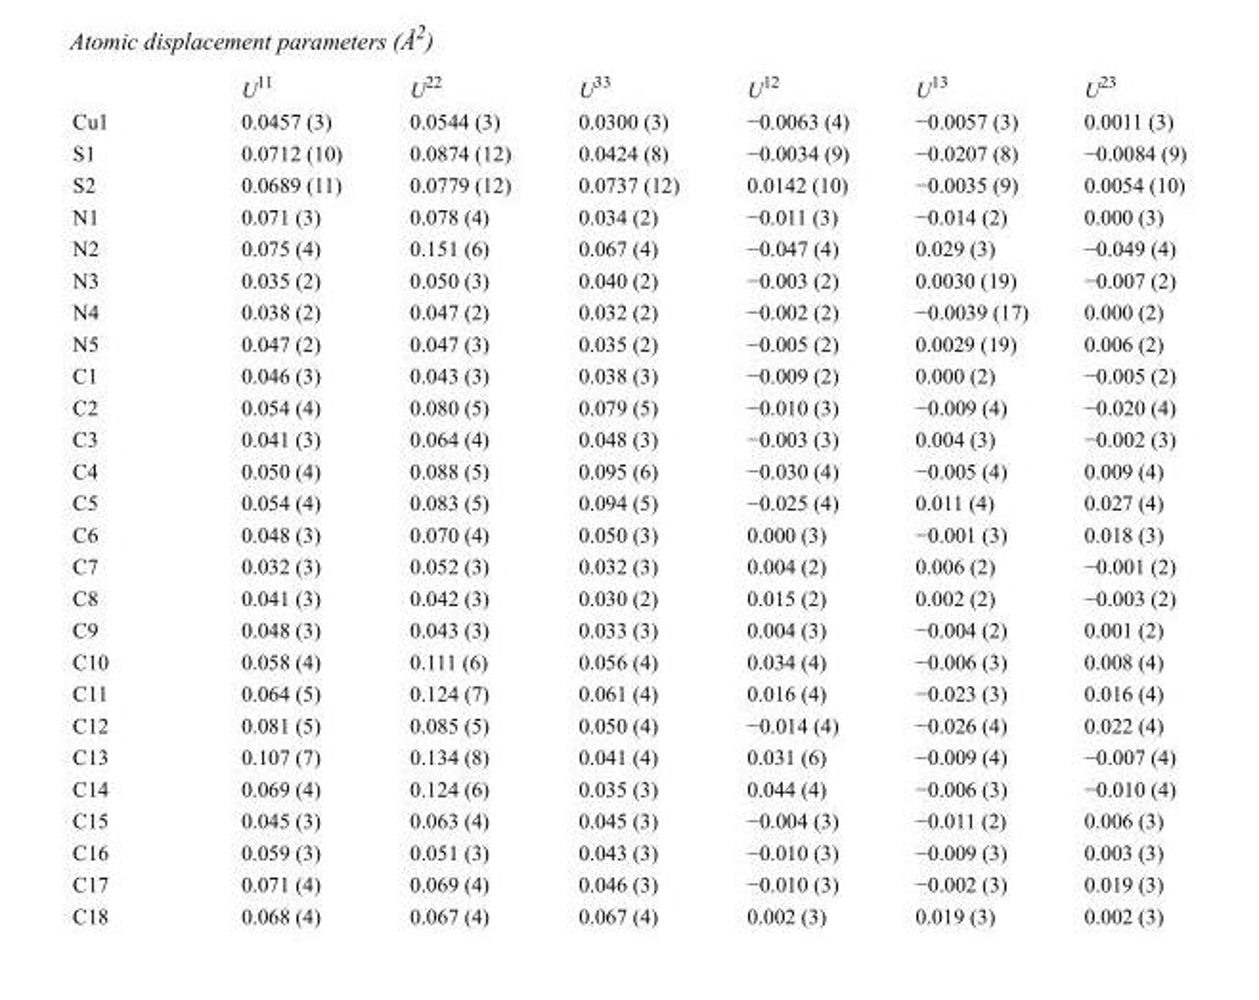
<table><thead><tr><td></td><td>U<sup>11</sup></td><td>U<sup>22</sup></td><td>U<sup>33</sup></td><td>U<sup>12</sup></td><td>U<sup>13</sup></td><td>U<sup>23</sup></td></tr></thead><tbody><tr><td>Cu1</td><td>0.0457 (3)</td><td>0.0544 (3)</td><td>0.0300 (3)</td><td>−0.0063 (4)</td><td>−0.0057 (3)</td><td>0.0011 (3)</td></tr><tr><td>S1</td><td>0.0712 (10)</td><td>0.0874 (12)</td><td>0.0424 (8)</td><td>−0.0034 (9)</td><td>−0.0207 (8)</td><td>−0.0084 (9)</td></tr><tr><td>S2</td><td>0.0689 (11)</td><td>0.0779 (12)</td><td>0.0737 (12)</td><td>0.0142 (10)</td><td>−0.0035 (9)</td><td>0.0054 (10)</td></tr><tr><td>N1</td><td>0.071 (3)</td><td>0.078 (4)</td><td>0.034 (2)</td><td>−0.011 (3)</td><td>−0.014 (2)</td><td>0.000 (3)</td></tr><tr><td>N2</td><td>0.075 (4)</td><td>0.151 (6)</td><td>0.067 (4)</td><td>−0.047 (4)</td><td>0.029 (3)</td><td>−0.049 (4)</td></tr><tr><td>N3</td><td>0.035 (2)</td><td>0.050 (3)</td><td>0.040 (2)</td><td>−0.003 (2)</td><td>0.0030 (19)</td><td>−0.007 (2)</td></tr><tr><td>N4</td><td>0.038 (2)</td><td>0.047 (2)</td><td>0.032 (2)</td><td>−0.002 (2)</td><td>−0.0039 (17)</td><td>0.000 (2)</td></tr><tr><td>N5</td><td>0.047 (2)</td><td>0.047 (3)</td><td>0.035 (2)</td><td>−0.005 (2)</td><td>0.0029 (19)</td><td>0.006 (2)</td></tr><tr><td>C1</td><td>0.046 (3)</td><td>0.043 (3)</td><td>0.038 (3)</td><td>−0.009 (2)</td><td>0.000 (2)</td><td>−0.005 (2)</td></tr><tr><td>C2</td><td>0.054 (4)</td><td>0.080 (5)</td><td>0.079 (5)</td><td>−0.010 (3)</td><td>−0.009 (4)</td><td>−0.020 (4)</td></tr><tr><td>C3</td><td>0.041 (3)</td><td>0.064 (4)</td><td>0.048 (3)</td><td>−0.003 (3)</td><td>0.004 (3)</td><td>−0.002 (3)</td></tr><tr><td>C4</td><td>0.050 (4)</td><td>0.088 (5)</td><td>0.095 (6)</td><td>−0.030 (4)</td><td>−0.005 (4)</td><td>0.009 (4)</td></tr><tr><td>C5</td><td>0.054 (4)</td><td>0.083 (5)</td><td>0.094 (5)</td><td>−0.025 (4)</td><td>0.011 (4)</td><td>0.027 (4)</td></tr><tr><td>C6</td><td>0.048 (3)</td><td>0.070 (4)</td><td>0.050 (3)</td><td>0.000 (3)</td><td>−0.001 (3)</td><td>0.018 (3)</td></tr><tr><td>C7</td><td>0.032 (3)</td><td>0.052 (3)</td><td>0.032 (3)</td><td>0.004 (2)</td><td>0.006 (2)</td><td>−0.001 (2)</td></tr><tr><td>C8</td><td>0.041 (3)</td><td>0.042 (3)</td><td>0.030 (2)</td><td>0.015 (2)</td><td>0.002 (2)</td><td>−0.003 (2)</td></tr><tr><td>C9</td><td>0.048 (3)</td><td>0.043 (3)</td><td>0.033 (3)</td><td>0.004 (3)</td><td>−0.004 (2)</td><td>0.001 (2)</td></tr><tr><td>C10</td><td>0.058 (4)</td><td>0.111 (6)</td><td>0.056 (4)</td><td>0.034 (4)</td><td>−0.006 (3)</td><td>0.008 (4)</td></tr><tr><td>C11</td><td>0.064 (5)</td><td>0.124 (7)</td><td>0.061 (4)</td><td>0.016 (4)</td><td>−0.023 (3)</td><td>0.016 (4)</td></tr><tr><td>C12</td><td>0.081 (5)</td><td>0.085 (5)</td><td>0.050 (4)</td><td>−0.014 (4)</td><td>−0.026 (4)</td><td>0.022 (4)</td></tr><tr><td>C13</td><td>0.107 (7)</td><td>0.134 (8)</td><td>0.041 (4)</td><td>0.031 (6)</td><td>−0.009 (4)</td><td>−0.007 (4)</td></tr><tr><td>C14</td><td>0.069 (4)</td><td>0.124 (6)</td><td>0.035 (3)</td><td>0.044 (4)</td><td>−0.006 (3)</td><td>−0.010 (4)</td></tr><tr><td>C15</td><td>0.045 (3)</td><td>0.063 (4)</td><td>0.045 (3)</td><td>−0.004 (3)</td><td>−0.011 (2)</td><td>0.006 (3)</td></tr><tr><td>C16</td><td>0.059 (3)</td><td>0.051 (3)</td><td>0.043 (3)</td><td>−0.010 (3)</td><td>−0.009 (3)</td><td>0.003 (3)</td></tr><tr><td>C17</td><td>0.071 (4)</td><td>0.069 (4)</td><td>0.046 (3)</td><td>−0.010 (3)</td><td>−0.002 (3)</td><td>0.019 (3)</td></tr><tr><td>C18</td><td>0.068 (4)</td><td>0.067 (4)</td><td>0.067 (4)</td><td>0.002 (3)</td><td>0.019 (3)</td><td>0.002 (3)</td></tr></tbody></table>